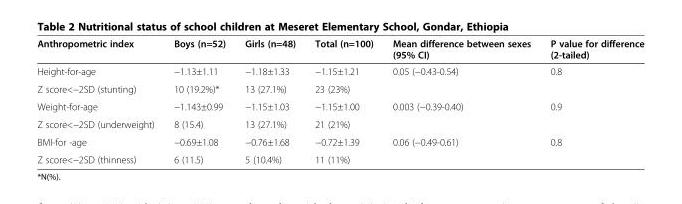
<table><thead><tr><td>Anthropometric index</td><td>Boys (n=52)</td><td>Girls (n=48)</td><td>Total (n=100)</td><td>Mean difference between sexes (95% CI)</td><td>P value for difference (2-tailed)</td></tr></thead><tbody><tr><td>Height-for-age</td><td>−1.13±1.11</td><td>−1.18±1.33</td><td>−1.15±1.21</td><td>0.05 (−0.43-0.54)</td><td>0.8</td></tr><tr><td>Z score&lt;−2SD (stunting)</td><td>10 (19.2%)*</td><td>13 (27.1%)</td><td>23 (23%)</td><td></td><td></td></tr><tr><td>Weight-for-age</td><td>−1.143±0.99</td><td>−1.15±1.03</td><td>−1.15±1.00</td><td>0.003 (−0.39-0.40)</td><td>0.9</td></tr><tr><td>Z score&lt;−2SD (underweight)</td><td>8 (15.4)</td><td>13 (27.1%)</td><td>21 (21%)</td><td></td><td></td></tr><tr><td>BMI-for -age</td><td>−0.69±1.08</td><td>−0.76±1.68</td><td>−0.72±1.39</td><td>0.06 (−0.49-0.61)</td><td>0.8</td></tr><tr><td>Z score&lt;−2SD (thinness)</td><td>6 (11.5)</td><td>5 (10.4%)</td><td>11 (11%)</td><td></td><td></td></tr></tbody></table>